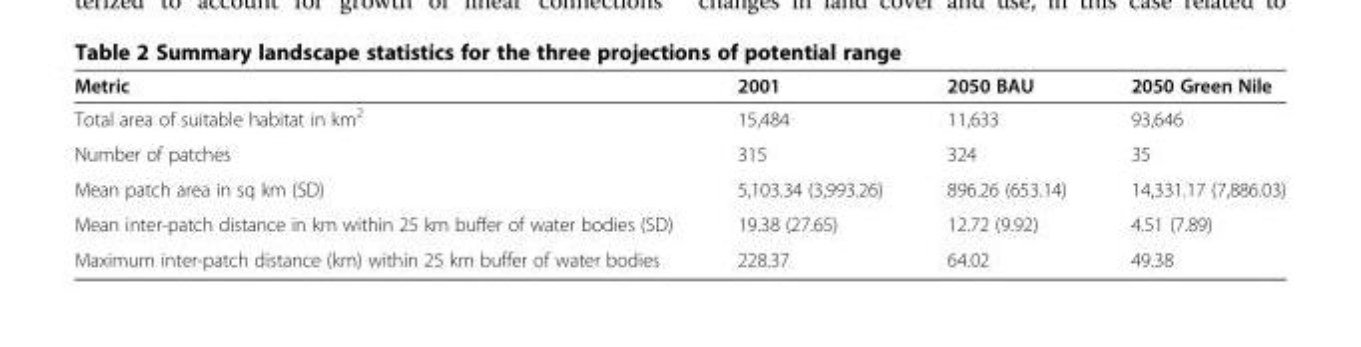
<table><thead><tr><td>Metric</td><td>2001</td><td>2050 BAU</td><td>2050 Green Nile</td></tr></thead><tbody><tr><td>Total area of suitable habitat in km<sup>2</sup></td><td>15,484</td><td>11,633</td><td>93,646</td></tr><tr><td>Number of patches</td><td>315</td><td>324</td><td>35</td></tr><tr><td>Mean patch area in sq km (SD)</td><td>5,103.34 (3,993.26)</td><td>896.26 (653.14)</td><td>14,331.17 (7,886.03)</td></tr><tr><td>Mean inter-patch distance in km within 25 km buffer of water bodies (SD)</td><td>19.38 (27.65)</td><td>12.72 (9.92)</td><td>4.51 (7.89)</td></tr><tr><td>Maximum inter-patch distance (km) within 25 km buffer of water bodies</td><td>228.37</td><td>64.02</td><td>49.38</td></tr></tbody></table>